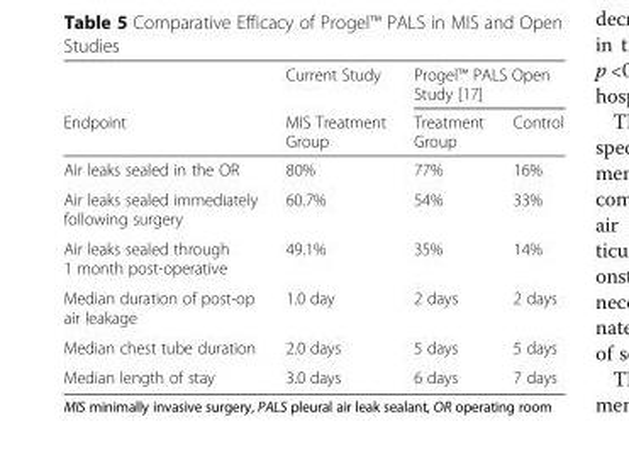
<table><thead><tr><td rowspan="2">Endpoint</td><td rowspan="2">Current Study MIS Treatment Group</td><td colspan="2">Progel™ PALS Open Study [17]</td></tr><tr><td>Treatment Group</td><td>Control</td></tr></thead><tbody><tr><td>Air leaks sealed in the OR</td><td>80%</td><td>77%</td><td>16%</td></tr><tr><td>Air leaks sealed immediately following surgery</td><td>60.7%</td><td>54%</td><td>33%</td></tr><tr><td>Air leaks sealed through 1 month post-operative</td><td>49.1%</td><td>35%</td><td>14%</td></tr><tr><td>Median duration of post-op air leakage</td><td>1.0 day</td><td>2 days</td><td>2 days</td></tr><tr><td>Median chest tube duration</td><td>2.0 days</td><td>5 days</td><td>5 days</td></tr><tr><td>Median length of stay</td><td>3.0 days</td><td>6 days</td><td>7 days</td></tr></tbody></table>